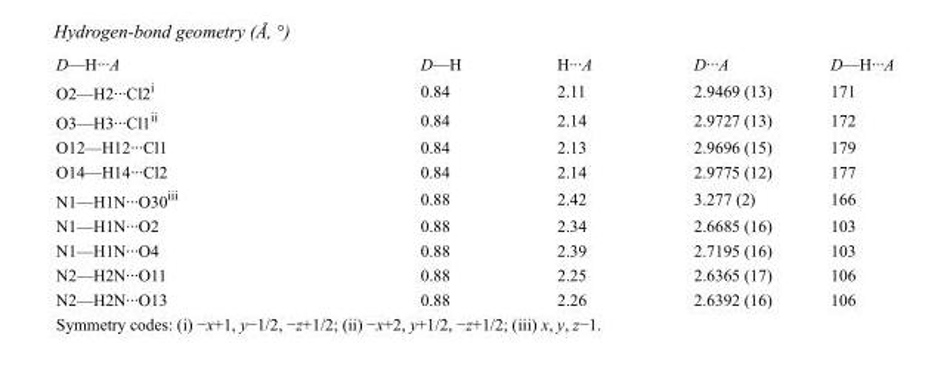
<table><tbody><tr><td>D—H···A</td><td>D—H</td><td>H···A</td><td>D···A</td><td>D—H···A</td></tr><tr><td>O2—H2···Cl2<sup>i</sup></td><td>0.84</td><td>2.11</td><td>2.9469 (13)</td><td>171</td></tr><tr><td>O3—H3···Cl1<sup>ii</sup></td><td>0.84</td><td>2.14</td><td>2.9727 (13)</td><td>172</td></tr><tr><td>O12—H12···Cl1</td><td>0.84</td><td>2.13</td><td>2.9696 (15)</td><td>179</td></tr><tr><td>O14—H14···Cl2</td><td>0.84</td><td>2.14</td><td>2.9775 (12)</td><td>177</td></tr><tr><td>N1—H1N···O30<sup>iii</sup></td><td>0.88</td><td>2.42</td><td>3.277 (2)</td><td>166</td></tr><tr><td>N1—H1N···O2</td><td>0.88</td><td>2.34</td><td>2.6685 (16)</td><td>103</td></tr><tr><td>N1—H1N···O4</td><td>0.88</td><td>2.39</td><td>2.7195 (16)</td><td>103</td></tr><tr><td>N2—H2N···O11</td><td>0.88</td><td>2.25</td><td>2.6365 (17)</td><td>106</td></tr><tr><td>N2—H2N···O13</td><td>0.88</td><td>2.26</td><td>2.6392 (16)</td><td>106</td></tr></tbody></table>